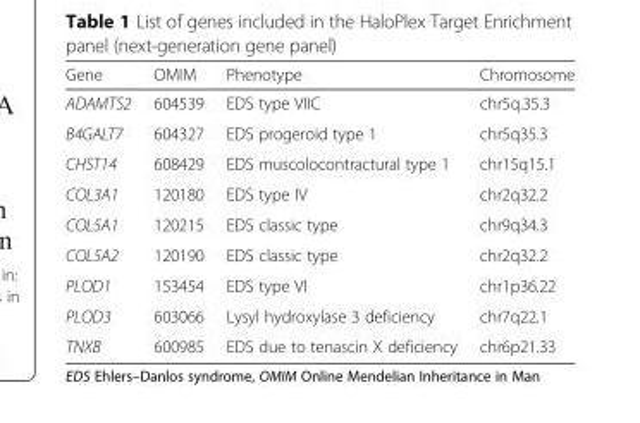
<table><thead><tr><td>Gene</td><td>OMIM</td><td>Phenotype</td><td>Chromosome</td></tr></thead><tbody><tr><td>ADAMTS2</td><td>604539</td><td>EDS type VIIC</td><td>chr5q.35.3</td></tr><tr><td>B4GALT7</td><td>604327</td><td>EDS progeroid type 1</td><td>chr5q35.3</td></tr><tr><td>CHST14</td><td>608429</td><td>EDS muscolocontractural type 1</td><td>chr15q15.1</td></tr><tr><td>COL3A1</td><td>120180</td><td>EDS type IV</td><td>chr2q32.2</td></tr><tr><td>COL5A1</td><td>120215</td><td>EDS classic type</td><td>chr9q34.3</td></tr><tr><td>COL5A2</td><td>120190</td><td>EDS classic type</td><td>chr2q32.2</td></tr><tr><td>PLOD1</td><td>153454</td><td>EDS type VI</td><td>chr1p36.22</td></tr><tr><td>PLOD3</td><td>603066</td><td>Lysyl hydroxylase 3 deficiency</td><td>chr7q22.1</td></tr><tr><td>TNXB</td><td>600985</td><td>EDS due to tenascin X deficiency</td><td>chr6p21.33</td></tr></tbody></table>